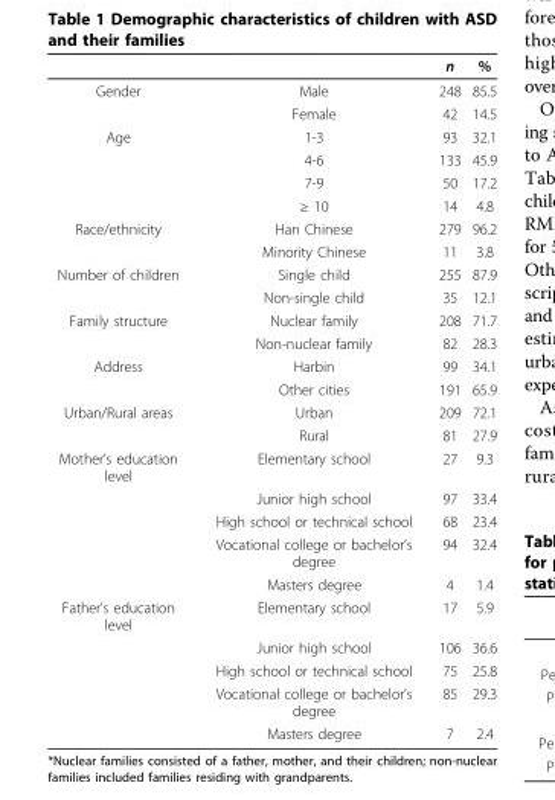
<table><thead><tr><td></td><td></td><td>n</td><td>%</td></tr></thead><tbody><tr><td rowspan="2">Gender</td><td>Male</td><td>248</td><td>85.5</td></tr><tr><td>Female</td><td>42</td><td>14.5</td></tr><tr><td rowspan="4">Age</td><td>1-3</td><td>93</td><td>32.1</td></tr><tr><td>4-6</td><td>133</td><td>45.9</td></tr><tr><td>7-9</td><td>50</td><td>17.2</td></tr><tr><td>≥ 10</td><td>14</td><td>4.8</td></tr><tr><td rowspan="2">Race/ethnicity</td><td>Han Chinese</td><td>279</td><td>96.2</td></tr><tr><td>Minority Chinese</td><td>11</td><td>3.8</td></tr><tr><td rowspan="2">Number of children</td><td>Single child</td><td>255</td><td>87.9</td></tr><tr><td>Non-single child</td><td>35</td><td>12.1</td></tr><tr><td rowspan="2">Family structure</td><td>Nuclear family</td><td>208</td><td>71.7</td></tr><tr><td>Non-nuclear family</td><td>82</td><td>28.3</td></tr><tr><td rowspan="2">Address</td><td>Harbin</td><td>99</td><td>34.1</td></tr><tr><td>Other cities</td><td>191</td><td>65.9</td></tr><tr><td rowspan="2">Urban/Rural areas</td><td>Urban</td><td>209</td><td>72.1</td></tr><tr><td>Rural</td><td>81</td><td>27.9</td></tr><tr><td rowspan="5">Mother’s education level</td><td>Elementary school</td><td>27</td><td>9.3</td></tr><tr><td>Junior high school</td><td>97</td><td>33.4</td></tr><tr><td>High school or technical school</td><td>68</td><td>23.4</td></tr><tr><td>Vocational college or bachelor’s degree</td><td>94</td><td>32.4</td></tr><tr><td>Masters degree</td><td>4</td><td>1.4</td></tr><tr><td rowspan="5">Father’s education level</td><td>Elementary school</td><td>17</td><td>5.9</td></tr><tr><td>Junior high school</td><td>106</td><td>36.6</td></tr><tr><td>High school or technical school</td><td>75</td><td>25.8</td></tr><tr><td>Vocational college or bachelor’s degree</td><td>85</td><td>29.3</td></tr><tr><td>Masters degree</td><td>7</td><td>2.4</td></tr></tbody></table>